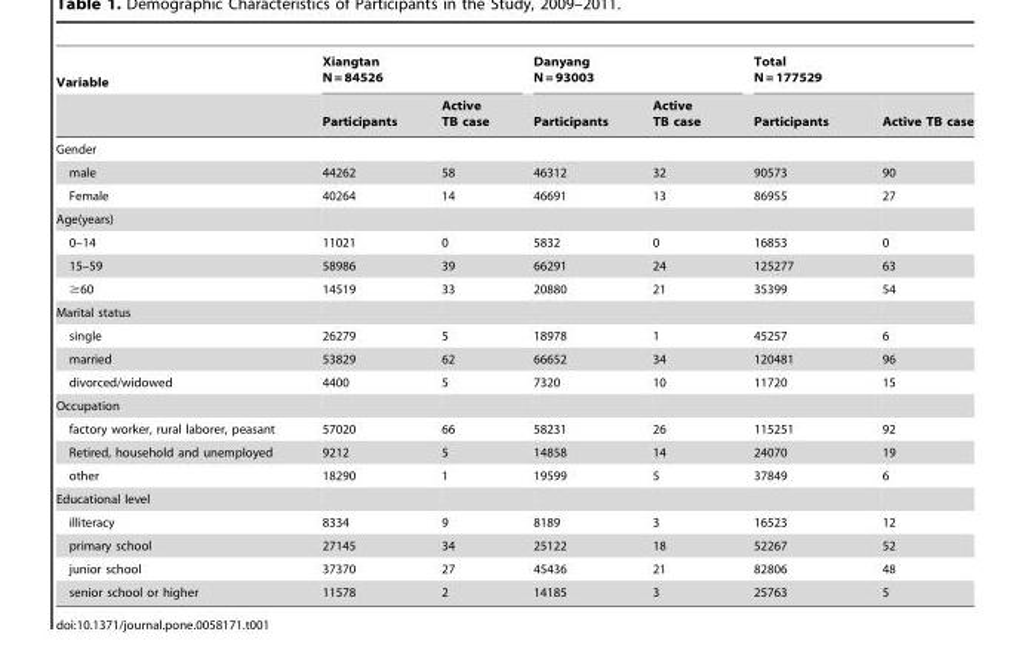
<table><thead><tr><td rowspan="2">Variable</td><td colspan="2">Xiangtan N = 84526</td><td colspan="2">Danyang N = 93003</td><td colspan="2">Total N = 177529</td></tr><tr><td>Participants</td><td>Active TB case</td><td>Participants</td><td>Active TB case</td><td>Participants</td><td>Active TB case</td></tr></thead><tbody><tr><td colspan="7">Gender</td></tr><tr><td>male</td><td>44262</td><td>58</td><td>46312</td><td>32</td><td>90573</td><td>90</td></tr><tr><td>Female</td><td>40264</td><td>14</td><td>46691</td><td>13</td><td>86955</td><td>27</td></tr><tr><td colspan="7">Age(years)</td></tr><tr><td>0–14</td><td>11021</td><td>0</td><td>5832</td><td>0</td><td>16853</td><td>0</td></tr><tr><td>15–59</td><td>58986</td><td>39</td><td>66291</td><td>24</td><td>125277</td><td>63</td></tr><tr><td>≥60</td><td>14519</td><td>33</td><td>20880</td><td>21</td><td>35399</td><td>54</td></tr><tr><td colspan="7">Marital status</td></tr><tr><td>single</td><td>26279</td><td>5</td><td>18978</td><td>1</td><td>45257</td><td>6</td></tr><tr><td>married</td><td>53829</td><td>62</td><td>66652</td><td>34</td><td>120481</td><td>96</td></tr><tr><td>divorced/widowed</td><td>4400</td><td>5</td><td>7320</td><td>10</td><td>11720</td><td>15</td></tr><tr><td colspan="7">Occupation</td></tr><tr><td>factory worker, rural laborer, peasant</td><td>57020</td><td>66</td><td>58231</td><td>26</td><td>115251</td><td>92</td></tr><tr><td>Retired, household and unemployed</td><td>9212</td><td>5</td><td>14858</td><td>14</td><td>24070</td><td>19</td></tr><tr><td>other</td><td>18290</td><td>1</td><td>19599</td><td>5</td><td>37849</td><td>6</td></tr><tr><td colspan="7">Educational level</td></tr><tr><td>illiteracy</td><td>8334</td><td>9</td><td>8189</td><td>3</td><td>16523</td><td>12</td></tr><tr><td>primary school</td><td>27145</td><td>34</td><td>25122</td><td>18</td><td>52267</td><td>52</td></tr><tr><td>junior school</td><td>37370</td><td>27</td><td>45436</td><td>21</td><td>82806</td><td>48</td></tr><tr><td>senior school or higher</td><td>11578</td><td>2</td><td>14185</td><td>3</td><td>25763</td><td>5</td></tr></tbody></table>